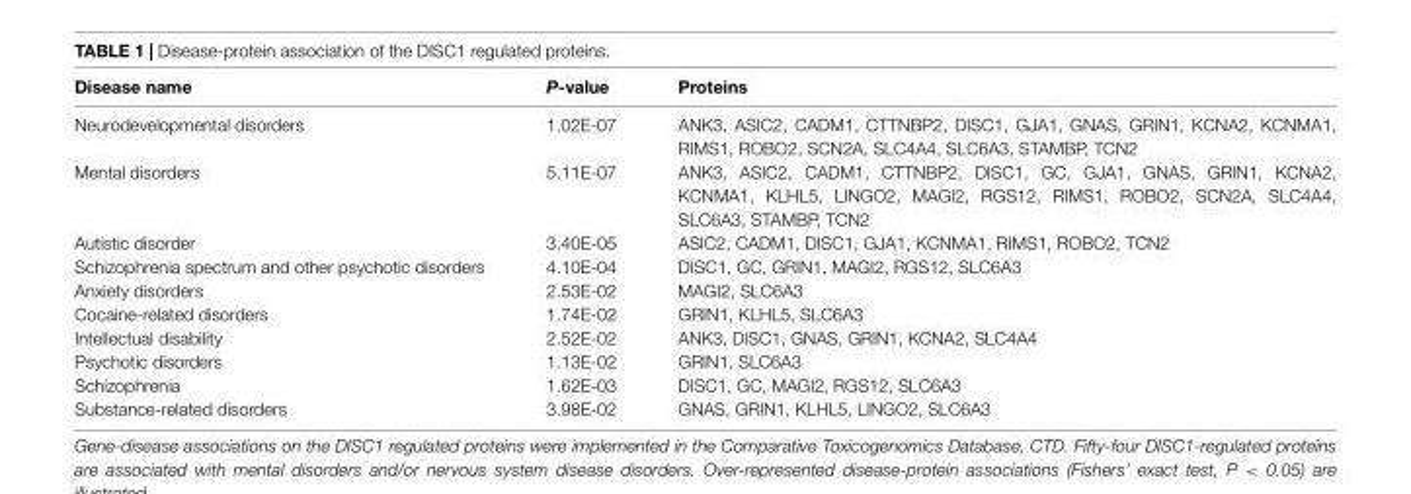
<table><thead><tr><td>Disease name</td><td>P-value</td><td>Proteins</td></tr></thead><tbody><tr><td>Neurodevelopmental disorders</td><td>1.02E-07</td><td>ANK3, ASIC2, CADM1, CTTNBP2, DISC1, GJA1, GNAS, GRIN1, KCNA2, KCNMA1, RIMS1, ROBO2, SCN2A, SLC4A4, SLC6A3, STAMBP, TCN2</td></tr><tr><td>Mental disorders</td><td>5.11E-07</td><td>ANK3, ASIC2, CADM1, CTTNBP2, DISC1, GC, GJA1, GNAS, GRIN1, KCNA2, KCNMA1, KLHL5, LINGO2, MAGI2, RGS12, RIMS1, ROBO2, SCN2A, SLC4A4, SLC6A3, STAMBP, TCN2</td></tr><tr><td>Autistic disorder</td><td>3.40E-05</td><td>ASIC2, CADM1, DISC1, GJA1, KCNMA1, RIMS1, ROBO2, TCN2</td></tr><tr><td>Schizophrenia spectrum and other psychotic disorders</td><td>4.10E-04</td><td>DISC1, GC, GRIN1, MAGI2, RGS12, SLC6A3</td></tr><tr><td>Anxiety disorders</td><td>2.53E-02</td><td>MAGI2, SLC6A3</td></tr><tr><td>Cocaine-related disorders</td><td>1.74E-02</td><td>GRIN1, KLHL5, SLC6A3</td></tr><tr><td>Intellectual disability</td><td>2.52E-02</td><td>ANK3, DISC1, GNAS, GRIN1, KCNA2, SLC4A4</td></tr><tr><td>Psychotic disorders</td><td>1.13E-02</td><td>GRIN1, SLC6A3</td></tr><tr><td>Schizophrenia</td><td>1.62E-03</td><td>DISC1, GC, MAGI2, RGS12, SLC6A3</td></tr><tr><td>Substance-related disorders</td><td>3.98E-02</td><td>GNAS, GRIN1, KLHL5, LINGO2, SLC6A3</td></tr></tbody></table>